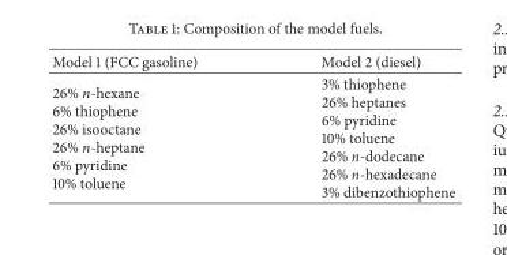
<table><thead><tr><td>Model 1 (FCC gasoline)</td><td>Model 2 (diesel)</td></tr></thead><tbody><tr><td>26% n-hexane 6% thiophene 26% isooctane 26% n-heptane 6% pyridine 10% toluene</td><td>3% thiophene 26% heptanes 6% pyridine 10% toluene 26% n-dodecane 26% n-hexadecane 3% dibenzothiophene</td></tr></tbody></table>